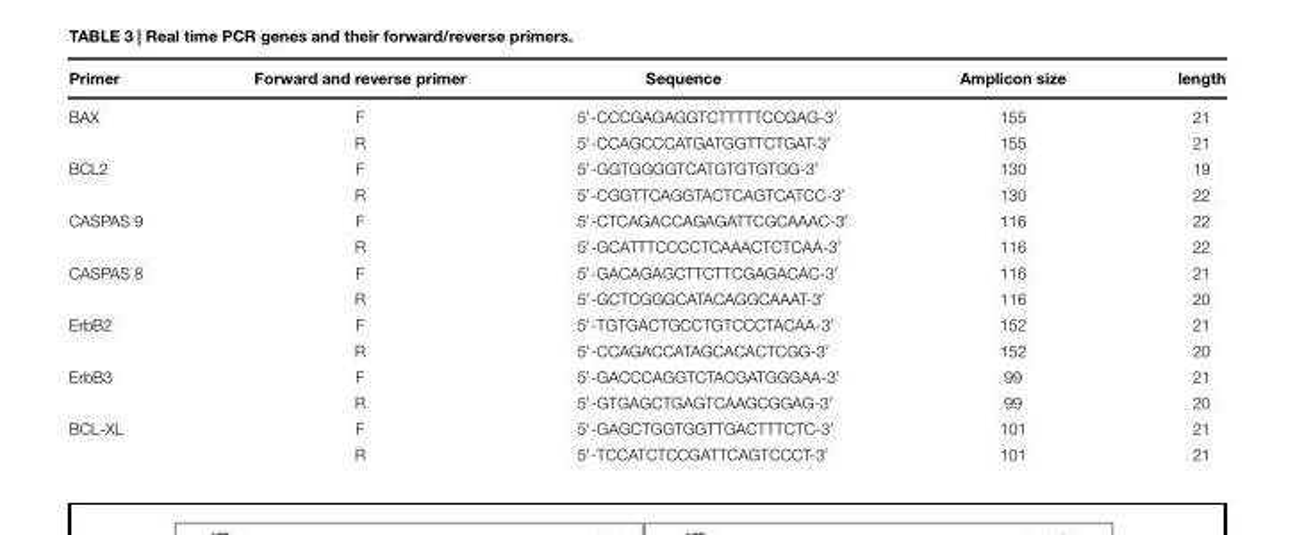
<table><thead><tr><td>Primer</td><td>Forward and reverse primer</td><td>Sequence</td><td>Amplicon size</td><td>length</td></tr></thead><tbody><tr><td rowspan="2">BAX</td><td>F</td><td>5′-CCCGAGAGGTCTTTTTCCGAG-3′</td><td>155</td><td>21</td></tr><tr><td>R</td><td>5′-CCAGCCCATGATGGTTCTGAT-3′</td><td>155</td><td>21</td></tr><tr><td rowspan="2">BCL2</td><td>F</td><td>5′-GGTGGGGTCATGTGTGTGG-3′</td><td>130</td><td>19</td></tr><tr><td>R</td><td>5′-CGGTTCAGGTACTCAGTCATCC-3′</td><td>130</td><td>22</td></tr><tr><td rowspan="2">CASPAS 9</td><td>F</td><td>5′-CTCAGACCAGAGATTCGCAAAC-3′</td><td>116</td><td>22</td></tr><tr><td>R</td><td>5′-GCATTTCCCCTCAAACTCTCAA-3′</td><td>116</td><td>22</td></tr><tr><td rowspan="2">CASPAS 8</td><td>F</td><td>5′-GACAGAGCTTCTTCGAGACAC-3′</td><td>116</td><td>21</td></tr><tr><td>R</td><td>5′-GCTCGGGCATACAGGCAAAT-3′</td><td>116</td><td>20</td></tr><tr><td rowspan="2">ErbB2</td><td>F</td><td>5′-TGTGACTGCCTGTCCCTACAA-3′</td><td>152</td><td>21</td></tr><tr><td>R</td><td>5′-CCAGACCATAGCACACTCGG-3′</td><td>152</td><td>20</td></tr><tr><td rowspan="2">ErbB3</td><td>F</td><td>5′-GACCCAGGTCTACGATGGGAA-3′</td><td>99</td><td>21</td></tr><tr><td>R</td><td>5′-GTGAGCTGAGTCAAGCGGAG-3′</td><td>99</td><td>20</td></tr><tr><td rowspan="2">BCL-XL</td><td>F</td><td>5′-GAGCTGGTGGTTGACTTTCTC-3′</td><td>101</td><td>21</td></tr><tr><td>R</td><td>5′-TCCATCTCCGATTCAGTCCCT-3′</td><td>101</td><td>21</td></tr></tbody></table>